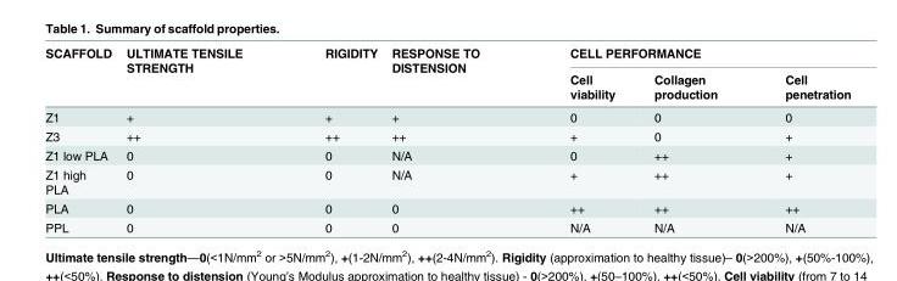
<table><thead><tr><td rowspan="2">SCAFFOLD</td><td rowspan="2">ULTIMATE TENSILE STRENGTH</td><td rowspan="2">RIGIDITY</td><td rowspan="2">RESPONSE TO DISTENSION</td><td colspan="3">CELL PERFORMANCE</td></tr><tr><td>Cell viability</td><td>Collagen production</td><td>Cell penetration</td></tr></thead><tbody><tr><td>Z1</td><td>+</td><td>+</td><td>+</td><td>0</td><td>0</td><td>0</td></tr><tr><td>Z3</td><td>++</td><td>++</td><td>++</td><td>+</td><td>0</td><td>+</td></tr><tr><td>Z1 low PLA</td><td>0</td><td>0</td><td>N/A</td><td>0</td><td>++</td><td>+</td></tr><tr><td>Z1 high PLA</td><td>0</td><td>0</td><td>N/A</td><td>+</td><td>++</td><td>+</td></tr><tr><td>PLA</td><td>0</td><td>0</td><td>0</td><td>++</td><td>++</td><td>++</td></tr><tr><td>PPL</td><td>0</td><td>0</td><td>0</td><td>N/A</td><td>N/A</td><td>N/A</td></tr></tbody></table>